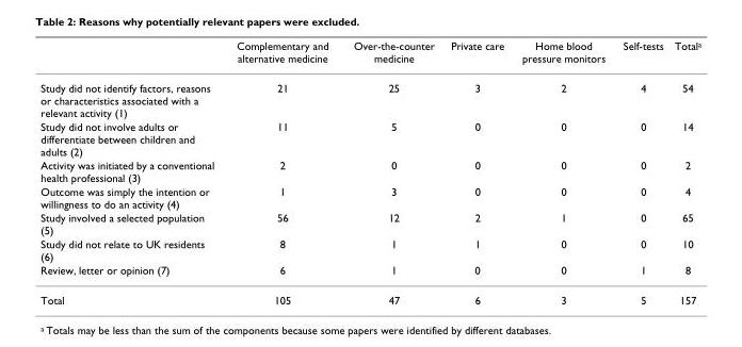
<table><thead><tr><td></td><td>Complementary and alternative medicine</td><td>Over-the-counter medicine</td><td>Private care</td><td>Home blood pressure monitors</td><td>Self-tests</td><td>Total<sup>a</sup></td></tr></thead><tbody><tr><td>Study did not identify factors, reasons or characteristics associated with a relevant activity (1)</td><td>21</td><td>25</td><td>3</td><td>2</td><td>4</td><td>54</td></tr><tr><td>Study did not involve adults or differentiate between children and adults (2)</td><td>11</td><td>5</td><td>0</td><td>0</td><td>0</td><td>14</td></tr><tr><td>Activity was initiated by a conventional health professional (3)</td><td>2</td><td>0</td><td>0</td><td>0</td><td>0</td><td>2</td></tr><tr><td>Outcome was simply the intention or willingness to do an activity (4)</td><td>1</td><td>3</td><td>0</td><td>0</td><td>0</td><td>4</td></tr><tr><td>Study involved a selected population (5)</td><td>56</td><td>12</td><td>2</td><td>1</td><td>0</td><td>65</td></tr><tr><td>Study did not relate to UK residents (6)</td><td>8</td><td>1</td><td>1</td><td>0</td><td>0</td><td>10</td></tr><tr><td>Review, letter or opinion (7)</td><td>6</td><td>1</td><td>0</td><td>0</td><td>1</td><td>8</td></tr><tr><td>Total</td><td>105</td><td>47</td><td>6</td><td>3</td><td>5</td><td>157</td></tr></tbody></table>